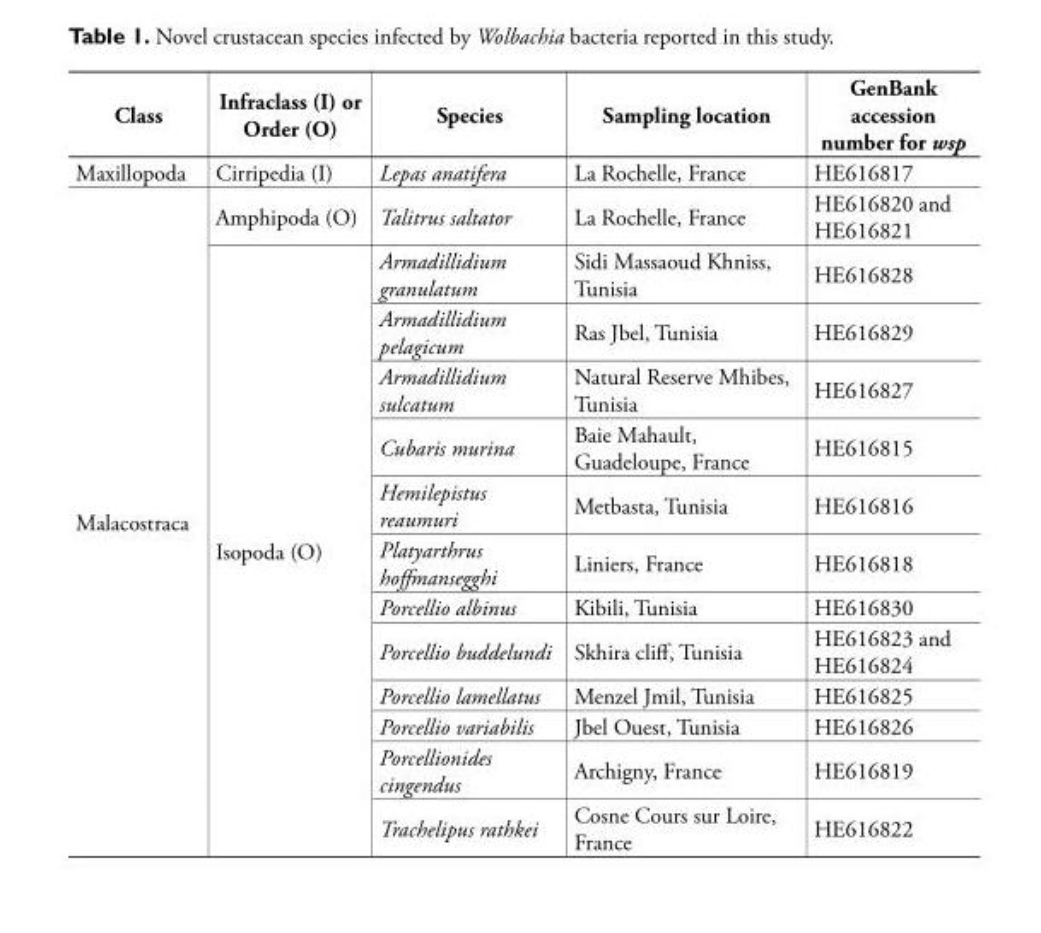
<table><tbody><tr><td>Class</td><td>Infraclass (I) or Order (O)</td><td>Species</td><td>Sampling location</td><td>GenBank accession number for wsp</td></tr><tr><td>Maxillopoda</td><td>Cirripedia (I)</td><td>Lepas anatifera</td><td>La Rochelle, France</td><td>HE616817</td></tr><tr><td rowspan="13">Malacostraca</td><td>Amphipoda (O)</td><td>Talitrus saltator</td><td>La Rochelle, France</td><td>HE616820 and HE616821</td></tr><tr><td rowspan="12">Isopoda (O)</td><td>Armadillidium granulatum</td><td>Sidi Massaoud Khniss, Tunisia</td><td>HE616828</td></tr><tr><td>Armadillidium pelagicum</td><td>Ras Jbel, Tunisia</td><td>HE616829</td></tr><tr><td>Armadillidium sulcatum</td><td>Natural Reserve Mhibes, Tunisia</td><td>HE616827</td></tr><tr><td>Cubaris murina</td><td>Baie Mahault, Guadeloupe, France</td><td>HE616815</td></tr><tr><td>Hemilepistus reaumuri</td><td>Metbasta, Tunisia</td><td>HE616816</td></tr><tr><td>Platyarthrus hoffmansegghi</td><td>Liniers, France</td><td>HE616818</td></tr><tr><td>Porcellio albinus</td><td>Kibili, Tunisia</td><td>HE616830</td></tr><tr><td>Porcellio buddelundi</td><td>Skhira cliff, Tunisia</td><td>HE616823 and HE616824</td></tr><tr><td>Porcellio lamellatus</td><td>Menzel Jmil, Tunisia</td><td>HE616825</td></tr><tr><td>Porcellio variabilis</td><td>Jbel Ouest, Tunisia</td><td>HE616826</td></tr><tr><td>Porcellionides cingendus</td><td>Archigny, France</td><td>HE616819</td></tr><tr><td>Trachelipus rathkei</td><td>Cosne Cours sur Loire, France</td><td>HE616822</td></tr></tbody></table>